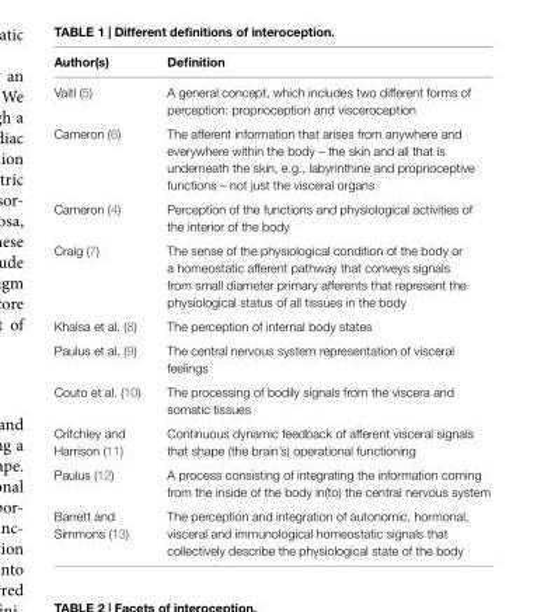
<table><thead><tr><td>Author(s)</td><td>Definition</td></tr></thead><tbody><tr><td>Vaitl (5)</td><td>A general concept, which includes two different forms of perception: proprioception and visceroception</td></tr><tr><td>Cameron (6)</td><td>The afferent information that arises from anywhere and everywhere within the body – the skin and all that is underneath the skin, e.g., labyrinthine and proprioceptive functions – not just the visceral organs</td></tr><tr><td>Cameron (4)</td><td>Perception of the functions and physiological activities of the interior of the body</td></tr><tr><td>Craig (7)</td><td>The sense of the physiological condition of the body or a homeostatic afferent pathway that conveys signals from small diameter primary afferents that represent the physiological status of all tissues in the body</td></tr><tr><td>Khalsa et al. (8)</td><td>The perception of internal body states</td></tr><tr><td>Paulus et al. (9)</td><td>The central nervous system representation of visceral feelings</td></tr><tr><td>Couto et al. (10)</td><td>The processing of bodily signals from the viscera and somatic tissues</td></tr><tr><td>Critchley and Harrison (11)</td><td>Continuous dynamic feedback of afferent visceral signals that shape (the brain’s) operational functioning</td></tr><tr><td>Paulus (12)</td><td>A process consisting of integrating the information coming from the inside of the body in(to) the central nervous system</td></tr><tr><td>Barrett and Simmons (13)</td><td>The perception and integration of autonomic, hormonal, visceral and immunological homeostatic signals that collectively describe the physiological state of the body</td></tr></tbody></table>